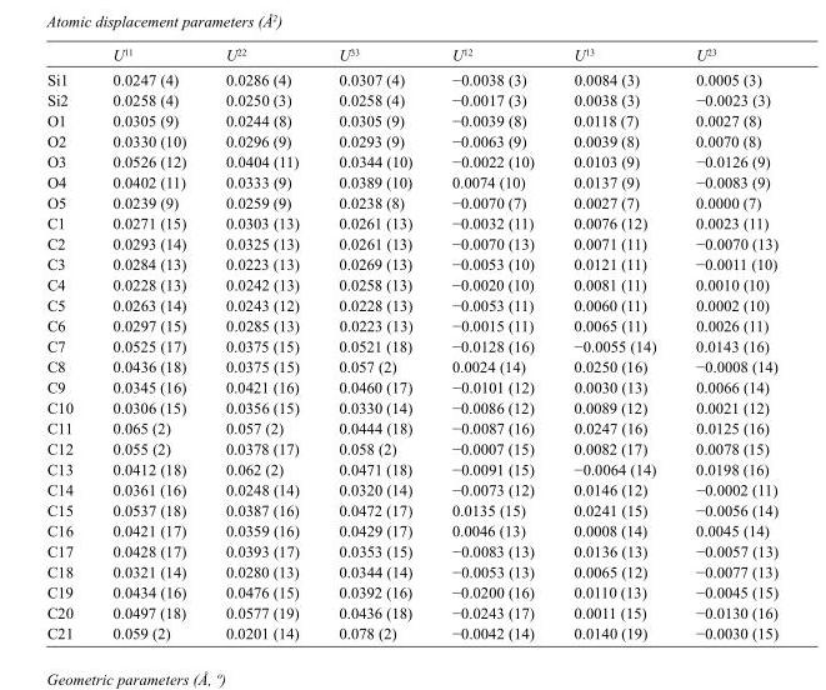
<table><thead><tr><td></td><td>U<sup>11</sup></td><td>U<sup>22</sup></td><td>U<sup>33</sup></td><td>U<sup>12</sup></td><td>U<sup>13</sup></td><td>U<sup>23</sup></td></tr></thead><tbody><tr><td>Si1</td><td>0.0247 (4)</td><td>0.0286 (4)</td><td>0.0307 (4)</td><td>−0.0038 (3)</td><td>0.0084 (3)</td><td>0.0005 (3)</td></tr><tr><td>Si2</td><td>0.0258 (4)</td><td>0.0250 (3)</td><td>0.0258 (4)</td><td>−0.0017 (3)</td><td>0.0038 (3)</td><td>−0.0023 (3)</td></tr><tr><td>O1</td><td>0.0305 (9)</td><td>0.0244 (8)</td><td>0.0305 (9)</td><td>−0.0039 (8)</td><td>0.0118 (7)</td><td>0.0027 (8)</td></tr><tr><td>O2</td><td>0.0330 (10)</td><td>0.0296 (9)</td><td>0.0293 (9)</td><td>−0.0063 (9)</td><td>0.0039 (8)</td><td>0.0070 (8)</td></tr><tr><td>O3</td><td>0.0526 (12)</td><td>0.0404 (11)</td><td>0.0344 (10)</td><td>−0.0022 (10)</td><td>0.0103 (9)</td><td>−0.0126 (9)</td></tr><tr><td>O4</td><td>0.0402 (11)</td><td>0.0333 (9)</td><td>0.0389 (10)</td><td>0.0074 (10)</td><td>0.0137 (9)</td><td>−0.0083 (9)</td></tr><tr><td>O5</td><td>0.0239 (9)</td><td>0.0259 (9)</td><td>0.0238 (8)</td><td>−0.0070 (7)</td><td>0.0027 (7)</td><td>0.0000 (7)</td></tr><tr><td>C1</td><td>0.0271 (15)</td><td>0.0303 (13)</td><td>0.0261 (13)</td><td>−0.0032 (11)</td><td>0.0076 (12)</td><td>0.0023 (11)</td></tr><tr><td>C2</td><td>0.0293 (14)</td><td>0.0325 (13)</td><td>0.0261 (13)</td><td>−0.0070 (13)</td><td>0.0071 (11)</td><td>−0.0070 (13)</td></tr><tr><td>C3</td><td>0.0284 (13)</td><td>0.0223 (13)</td><td>0.0269 (13)</td><td>−0.0053 (10)</td><td>0.0121 (11)</td><td>−0.0011 (10)</td></tr><tr><td>C4</td><td>0.0228 (13)</td><td>0.0242 (13)</td><td>0.0258 (13)</td><td>−0.0020 (10)</td><td>0.0081 (11)</td><td>0.0010 (10)</td></tr><tr><td>C5</td><td>0.0263 (14)</td><td>0.0243 (12)</td><td>0.0228 (13)</td><td>−0.0053 (11)</td><td>0.0060 (11)</td><td>0.0002 (10)</td></tr><tr><td>C6</td><td>0.0297 (15)</td><td>0.0285 (13)</td><td>0.0223 (13)</td><td>−0.0015 (11)</td><td>0.0065 (11)</td><td>0.0026 (11)</td></tr><tr><td>C7</td><td>0.0525 (17)</td><td>0.0375 (15)</td><td>0.0521 (18)</td><td>−0.0128 (16)</td><td>−0.0055 (14)</td><td>0.0143 (16)</td></tr><tr><td>C8</td><td>0.0436 (18)</td><td>0.0375 (15)</td><td>0.057 (2)</td><td>0.0024 (14)</td><td>0.0250 (16)</td><td>−0.0008 (14)</td></tr><tr><td>C9</td><td>0.0345 (16)</td><td>0.0421 (16)</td><td>0.0460 (17)</td><td>−0.0101 (12)</td><td>0.0030 (13)</td><td>0.0066 (14)</td></tr><tr><td>C10</td><td>0.0306 (15)</td><td>0.0356 (15)</td><td>0.0330 (14)</td><td>−0.0086 (12)</td><td>0.0089 (12)</td><td>0.0021 (12)</td></tr><tr><td>C11</td><td>0.065 (2)</td><td>0.057 (2)</td><td>0.0444 (18)</td><td>−0.0087 (16)</td><td>0.0247 (16)</td><td>0.0125 (16)</td></tr><tr><td>C12</td><td>0.055 (2)</td><td>0.0378 (17)</td><td>0.058 (2)</td><td>−0.0007 (15)</td><td>0.0082 (17)</td><td>0.0078 (15)</td></tr><tr><td>C13</td><td>0.0412 (18)</td><td>0.062 (2)</td><td>0.0471 (18)</td><td>−0.0091 (15)</td><td>−0.0064 (14)</td><td>0.0198 (16)</td></tr><tr><td>C14</td><td>0.0361 (16)</td><td>0.0248 (14)</td><td>0.0320 (14)</td><td>−0.0073 (12)</td><td>0.0146 (12)</td><td>−0.0002 (11)</td></tr><tr><td>C15</td><td>0.0537 (18)</td><td>0.0387 (16)</td><td>0.0472 (17)</td><td>0.0135 (15)</td><td>0.0241 (15)</td><td>−0.0056 (14)</td></tr><tr><td>C16</td><td>0.0421 (17)</td><td>0.0359 (16)</td><td>0.0429 (17)</td><td>0.0046 (13)</td><td>0.0008 (14)</td><td>0.0045 (14)</td></tr><tr><td>C17</td><td>0.0428 (17)</td><td>0.0393 (17)</td><td>0.0353 (15)</td><td>−0.0083 (13)</td><td>0.0136 (13)</td><td>−0.0057 (13)</td></tr><tr><td>C18</td><td>0.0321 (14)</td><td>0.0280 (13)</td><td>0.0344 (14)</td><td>−0.0053 (13)</td><td>0.0065 (12)</td><td>−0.0077 (13)</td></tr><tr><td>C19</td><td>0.0434 (16)</td><td>0.0476 (15)</td><td>0.0392 (16)</td><td>−0.0200 (16)</td><td>0.0110 (13)</td><td>−0.0045 (15)</td></tr><tr><td>C20</td><td>0.0497 (18)</td><td>0.0577 (19)</td><td>0.0436 (18)</td><td>−0.0243 (17)</td><td>0.0011 (15)</td><td>−0.0130 (16)</td></tr><tr><td>C21</td><td>0.059 (2)</td><td>0.0201 (14)</td><td>0.078 (2)</td><td>−0.0042 (14)</td><td>0.0140 (19)</td><td>−0.0030 (15)</td></tr></tbody></table>